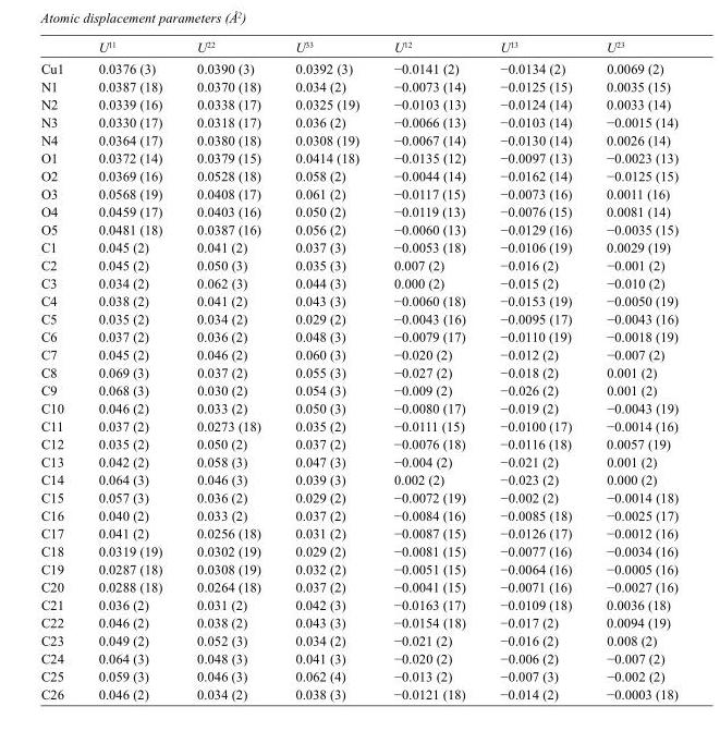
<table><thead><tr><td></td><td>U<sup>11</sup></td><td>U<sup>22</sup></td><td>U<sup>33</sup></td><td>U<sup>12</sup></td><td>U<sup>13</sup></td><td>U<sup>23</sup></td></tr></thead><tbody><tr><td>Cu1</td><td>0.0376 (3)</td><td>0.0390 (3)</td><td>0.0392 (3)</td><td>−0.0141 (2)</td><td>−0.0134 (2)</td><td>0.0069 (2)</td></tr><tr><td>N1</td><td>0.0387 (18)</td><td>0.0370 (18)</td><td>0.034 (2)</td><td>−0.0073 (14)</td><td>−0.0125 (15)</td><td>0.0035 (15)</td></tr><tr><td>N2</td><td>0.0339 (16)</td><td>0.0338 (17)</td><td>0.0325 (19)</td><td>−0.0103 (13)</td><td>−0.0124 (14)</td><td>0.0033 (14)</td></tr><tr><td>N3</td><td>0.0330 (17)</td><td>0.0318 (17)</td><td>0.036 (2)</td><td>−0.0066 (13)</td><td>−0.0103 (14)</td><td>−0.0015 (14)</td></tr><tr><td>N4</td><td>0.0364 (17)</td><td>0.0380 (18)</td><td>0.0308 (19)</td><td>−0.0067 (14)</td><td>−0.0130 (14)</td><td>0.0026 (14)</td></tr><tr><td>O1</td><td>0.0372 (14)</td><td>0.0379 (15)</td><td>0.0414 (18)</td><td>−0.0135 (12)</td><td>−0.0097 (13)</td><td>−0.0023 (13)</td></tr><tr><td>O2</td><td>0.0369 (16)</td><td>0.0528 (18)</td><td>0.058 (2)</td><td>−0.0044 (14)</td><td>−0.0162 (14)</td><td>−0.0125 (15)</td></tr><tr><td>O3</td><td>0.0568 (19)</td><td>0.0408 (17)</td><td>0.061 (2)</td><td>−0.0117 (15)</td><td>−0.0073 (16)</td><td>0.0011 (16)</td></tr><tr><td>O4</td><td>0.0459 (17)</td><td>0.0403 (16)</td><td>0.050 (2)</td><td>−0.0119 (13)</td><td>−0.0076 (15)</td><td>0.0081 (14)</td></tr><tr><td>O5</td><td>0.0481 (18)</td><td>0.0387 (16)</td><td>0.056 (2)</td><td>−0.0060 (13)</td><td>−0.0129 (16)</td><td>−0.0035 (15)</td></tr><tr><td>C1</td><td>0.045 (2)</td><td>0.041 (2)</td><td>0.037 (3)</td><td>−0.0053 (18)</td><td>−0.0106 (19)</td><td>0.0029 (19)</td></tr><tr><td>C2</td><td>0.045 (2)</td><td>0.050 (3)</td><td>0.035 (3)</td><td>0.007 (2)</td><td>−0.016 (2)</td><td>−0.001 (2)</td></tr><tr><td>C3</td><td>0.034 (2)</td><td>0.062 (3)</td><td>0.044 (3)</td><td>0.000 (2)</td><td>−0.015 (2)</td><td>−0.010 (2)</td></tr><tr><td>C4</td><td>0.038 (2)</td><td>0.041 (2)</td><td>0.043 (3)</td><td>−0.0060 (18)</td><td>−0.0153 (19)</td><td>−0.0050 (19)</td></tr><tr><td>C5</td><td>0.035 (2)</td><td>0.034 (2)</td><td>0.029 (2)</td><td>−0.0043 (16)</td><td>−0.0095 (17)</td><td>−0.0043 (16)</td></tr><tr><td>C6</td><td>0.037 (2)</td><td>0.036 (2)</td><td>0.048 (3)</td><td>−0.0079 (17)</td><td>−0.0110 (19)</td><td>−0.0018 (19)</td></tr><tr><td>C7</td><td>0.045 (2)</td><td>0.046 (2)</td><td>0.060 (3)</td><td>−0.020 (2)</td><td>−0.012 (2)</td><td>−0.007 (2)</td></tr><tr><td>C8</td><td>0.069 (3)</td><td>0.037 (2)</td><td>0.055 (3)</td><td>−0.027 (2)</td><td>−0.018 (2)</td><td>0.001 (2)</td></tr><tr><td>C9</td><td>0.068 (3)</td><td>0.030 (2)</td><td>0.054 (3)</td><td>−0.009 (2)</td><td>−0.026 (2)</td><td>0.001 (2)</td></tr><tr><td>C10</td><td>0.046 (2)</td><td>0.033 (2)</td><td>0.050 (3)</td><td>−0.0080 (17)</td><td>−0.019 (2)</td><td>−0.0043 (19)</td></tr><tr><td>C11</td><td>0.037 (2)</td><td>0.0273 (18)</td><td>0.035 (2)</td><td>−0.0111 (15)</td><td>−0.0100 (17)</td><td>−0.0014 (16)</td></tr><tr><td>C12</td><td>0.035 (2)</td><td>0.050 (2)</td><td>0.037 (2)</td><td>−0.0076 (18)</td><td>−0.0116 (18)</td><td>0.0057 (19)</td></tr><tr><td>C13</td><td>0.042 (2)</td><td>0.058 (3)</td><td>0.047 (3)</td><td>−0.004 (2)</td><td>−0.021 (2)</td><td>0.001 (2)</td></tr><tr><td>C14</td><td>0.064 (3)</td><td>0.046 (3)</td><td>0.039 (3)</td><td>0.002 (2)</td><td>−0.023 (2)</td><td>0.000 (2)</td></tr><tr><td>C15</td><td>0.057 (3)</td><td>0.036 (2)</td><td>0.029 (2)</td><td>−0.0072 (19)</td><td>−0.002 (2)</td><td>−0.0014 (18)</td></tr><tr><td>C16</td><td>0.040 (2)</td><td>0.033 (2)</td><td>0.037 (2)</td><td>−0.0084 (16)</td><td>−0.0085 (18)</td><td>−0.0025 (17)</td></tr><tr><td>C17</td><td>0.041 (2)</td><td>0.0256 (18)</td><td>0.031 (2)</td><td>−0.0087 (15)</td><td>−0.0126 (17)</td><td>−0.0012 (16)</td></tr><tr><td>C18</td><td>0.0319 (19)</td><td>0.0302 (19)</td><td>0.029 (2)</td><td>−0.0081 (15)</td><td>−0.0077 (16)</td><td>−0.0034 (16)</td></tr><tr><td>C19</td><td>0.0287 (18)</td><td>0.0308 (19)</td><td>0.032 (2)</td><td>−0.0051 (15)</td><td>−0.0064 (16)</td><td>−0.0005 (16)</td></tr><tr><td>C20</td><td>0.0288 (18)</td><td>0.0264 (18)</td><td>0.037 (2)</td><td>−0.0041 (15)</td><td>−0.0071 (16)</td><td>−0.0027 (16)</td></tr><tr><td>C21</td><td>0.036 (2)</td><td>0.031 (2)</td><td>0.042 (3)</td><td>−0.0163 (17)</td><td>−0.0109 (18)</td><td>0.0036 (18)</td></tr><tr><td>C22</td><td>0.046 (2)</td><td>0.038 (2)</td><td>0.043 (3)</td><td>−0.0154 (18)</td><td>−0.017 (2)</td><td>0.0094 (19)</td></tr><tr><td>C23</td><td>0.049 (2)</td><td>0.052 (3)</td><td>0.034 (2)</td><td>−0.021 (2)</td><td>−0.016 (2)</td><td>0.008 (2)</td></tr><tr><td>C24</td><td>0.064 (3)</td><td>0.048 (3)</td><td>0.041 (3)</td><td>−0.020 (2)</td><td>−0.006 (2)</td><td>−0.007 (2)</td></tr><tr><td>C25</td><td>0.059 (3)</td><td>0.046 (3)</td><td>0.062 (4)</td><td>−0.013 (2)</td><td>−0.007 (3)</td><td>−0.002 (2)</td></tr><tr><td>C26</td><td>0.046 (2)</td><td>0.034 (2)</td><td>0.038 (3)</td><td>−0.0121 (18)</td><td>−0.014 (2)</td><td>−0.0003 (18)</td></tr></tbody></table>